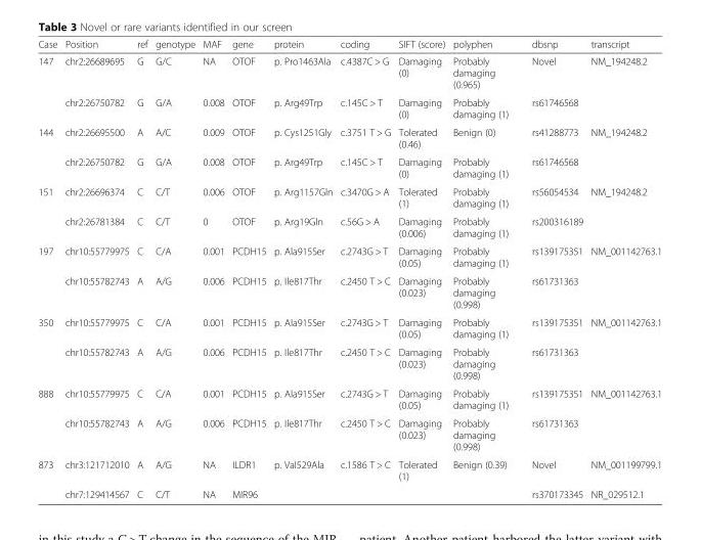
<table><thead><tr><td>Case</td><td>Position</td><td>ref</td><td>genotype</td><td>MAF</td><td>gene</td><td>protein</td><td>coding</td><td>SIFT (score)</td><td>polyphen</td><td>dbsnp</td><td>transcript</td></tr></thead><tbody><tr><td rowspan="2">147</td><td>chr2:26689695</td><td>G</td><td>G/C</td><td>NA</td><td>OTOF</td><td>p. Pro1463Ala</td><td>c.4387C &gt; G</td><td>Damaging (0)</td><td>Probably damaging (0.965)</td><td>Novel</td><td>NM_194248.2</td></tr><tr><td>chr2:26750782</td><td>G</td><td>G/A</td><td>0.008</td><td>OTOF</td><td>p. Arg49Trp</td><td>c.145C &gt; T</td><td>Damaging (0)</td><td>Probably damaging (1)</td><td>rs61746568</td><td></td></tr><tr><td rowspan="2">144</td><td>chr2:26695500</td><td>A</td><td>A/C</td><td>0.009</td><td>OTOF</td><td>p. Cys1251Gly</td><td>c.3751 T &gt; G</td><td>Tolerated (0.46)</td><td>Benign (0)</td><td>rs41288773</td><td>NM_194248.2</td></tr><tr><td>chr2:26750782</td><td>G</td><td>G/A</td><td>0.008</td><td>OTOF</td><td>p. Arg49Trp</td><td>c.145C &gt; T</td><td>Damaging (0)</td><td>Probably damaging (1)</td><td>rs61746568</td><td></td></tr><tr><td rowspan="2">151</td><td>chr2:26696374</td><td>C</td><td>C/T</td><td>0.006</td><td>OTOF</td><td>p. Arg1157Gln</td><td>c.3470G &gt; A</td><td>Tolerated (1)</td><td>Probably damaging (1)</td><td>rs56054534</td><td>NM_194248.2</td></tr><tr><td>chr2:26781384</td><td>C</td><td>C/T</td><td>0</td><td>OTOF</td><td>p. Arg19Gln</td><td>c.56G &gt; A</td><td>Damaging (0.006)</td><td>Probably damaging (1)</td><td>rs200316189</td><td></td></tr><tr><td rowspan="2">197</td><td>chr10:55779975</td><td>C</td><td>C/A</td><td>0.001</td><td>PCDH15</td><td>p. Ala915Ser</td><td>c.2743G &gt; T</td><td>Damaging (0.05)</td><td>Probably damaging (1)</td><td>rs139175351</td><td>NM_001142763.1</td></tr><tr><td>chr10:55782743</td><td>A</td><td>A/G</td><td>0.006</td><td>PCDH15</td><td>p. Ile817Thr</td><td>c.2450 T &gt; C</td><td>Damaging (0.023)</td><td>Probably damaging (0.998)</td><td>rs61731363</td><td></td></tr><tr><td rowspan="2">350</td><td>chr10:55779975</td><td>C</td><td>C/A</td><td>0.001</td><td>PCDH15</td><td>p. Ala915Ser</td><td>c.2743G &gt; T</td><td>Damaging (0.05)</td><td>Probably damaging (1)</td><td>rs139175351</td><td>NM_001142763.1</td></tr><tr><td>chr10:55782743</td><td>A</td><td>A/G</td><td>0.006</td><td>PCDH15</td><td>p. Ile817Thr</td><td>c.2450 T &gt; C</td><td>Damaging (0.023)</td><td>Probably damaging (0.998)</td><td>rs61731363</td><td></td></tr><tr><td rowspan="2">888</td><td>chr10:55779975</td><td>C</td><td>C/A</td><td>0.001</td><td>PCDH15</td><td>p. Ala915Ser</td><td>c.2743G &gt; T</td><td>Damaging (0.05)</td><td>Probably damaging (1)</td><td>rs139175351</td><td>NM_001142763.1</td></tr><tr><td>chr10:55782743</td><td>A</td><td>A/G</td><td>0.006</td><td>PCDH15</td><td>p. Ile817Thr</td><td>c.2450 T &gt; C</td><td>Damaging (0.023)</td><td>Probably damaging (0.998)</td><td>rs61731363</td><td></td></tr><tr><td rowspan="2">873</td><td>chr3:121712010</td><td>A</td><td>A/G</td><td>NA</td><td>ILDR1</td><td>p. Val529Ala</td><td>c.1586 T &gt; C</td><td>Tolerated (1)</td><td>Benign (0.39)</td><td>Novel</td><td>NM_001199799.1</td></tr><tr><td>chr7:129414567</td><td>C</td><td>C/T</td><td>NA</td><td>MIR96</td><td></td><td></td><td></td><td></td><td>rs370173345</td><td>NR_029512.1</td></tr></tbody></table>